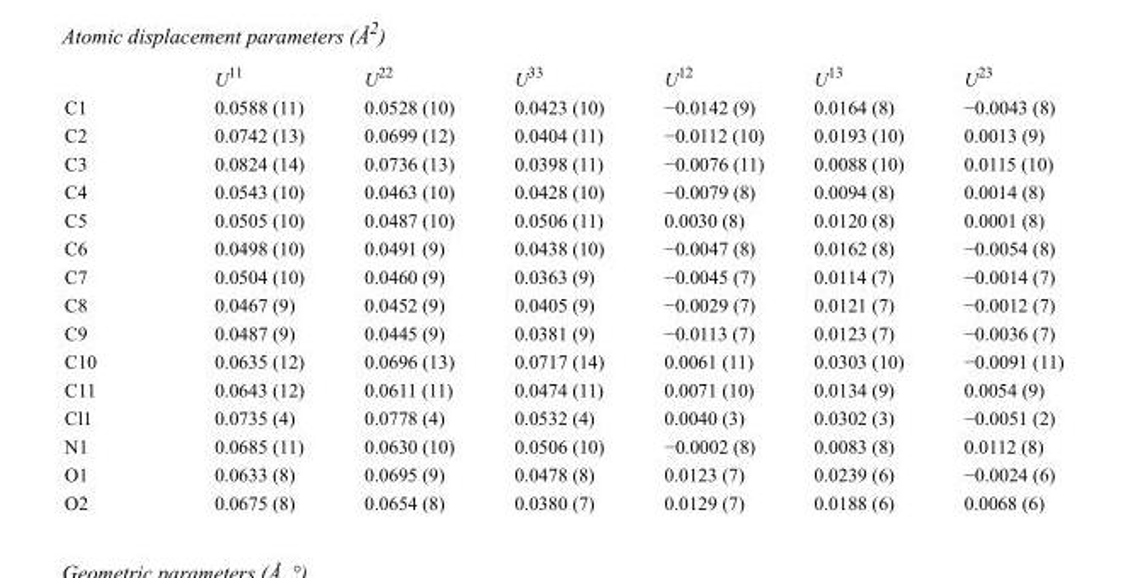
<table><thead><tr><td></td><td>U<sup>11</sup></td><td>U<sup>22</sup></td><td>U<sup>33</sup></td><td>U<sup>12</sup></td><td>U<sup>13</sup></td><td>U<sup>23</sup></td></tr></thead><tbody><tr><td>C1</td><td>0.0588 (11)</td><td>0.0528 (10)</td><td>0.0423 (10)</td><td>−0.0142 (9)</td><td>0.0164 (8)</td><td>−0.0043 (8)</td></tr><tr><td>C2</td><td>0.0742 (13)</td><td>0.0699 (12)</td><td>0.0404 (11)</td><td>−0.0112 (10)</td><td>0.0193 (10)</td><td>0.0013 (9)</td></tr><tr><td>C3</td><td>0.0824 (14)</td><td>0.0736 (13)</td><td>0.0398 (11)</td><td>−0.0076 (11)</td><td>0.0088 (10)</td><td>0.0115 (10)</td></tr><tr><td>C4</td><td>0.0543 (10)</td><td>0.0463 (10)</td><td>0.0428 (10)</td><td>−0.0079 (8)</td><td>0.0094 (8)</td><td>0.0014 (8)</td></tr><tr><td>C5</td><td>0.0505 (10)</td><td>0.0487 (10)</td><td>0.0506 (11)</td><td>0.0030 (8)</td><td>0.0120 (8)</td><td>0.0001 (8)</td></tr><tr><td>C6</td><td>0.0498 (10)</td><td>0.0491 (9)</td><td>0.0438 (10)</td><td>−0.0047 (8)</td><td>0.0162 (8)</td><td>−0.0054 (8)</td></tr><tr><td>C7</td><td>0.0504 (10)</td><td>0.0460 (9)</td><td>0.0363 (9)</td><td>−0.0045 (7)</td><td>0.0114 (7)</td><td>−0.0014 (7)</td></tr><tr><td>C8</td><td>0.0467 (9)</td><td>0.0452 (9)</td><td>0.0405 (9)</td><td>−0.0029 (7)</td><td>0.0121 (7)</td><td>−0.0012 (7)</td></tr><tr><td>C9</td><td>0.0487 (9)</td><td>0.0445 (9)</td><td>0.0381 (9)</td><td>−0.0113 (7)</td><td>0.0123 (7)</td><td>−0.0036 (7)</td></tr><tr><td>C10</td><td>0.0635 (12)</td><td>0.0696 (13)</td><td>0.0717 (14)</td><td>0.0061 (11)</td><td>0.0303 (10)</td><td>−0.0091 (11)</td></tr><tr><td>C11</td><td>0.0643 (12)</td><td>0.0611 (11)</td><td>0.0474 (11)</td><td>0.0071 (10)</td><td>0.0134 (9)</td><td>0.0054 (9)</td></tr><tr><td>Cl1</td><td>0.0735 (4)</td><td>0.0778 (4)</td><td>0.0532 (4)</td><td>0.0040 (3)</td><td>0.0302 (3)</td><td>−0.0051 (2)</td></tr><tr><td>N1</td><td>0.0685 (11)</td><td>0.0630 (10)</td><td>0.0506 (10)</td><td>−0.0002 (8)</td><td>0.0083 (8)</td><td>0.0112 (8)</td></tr><tr><td>O1</td><td>0.0633 (8)</td><td>0.0695 (9)</td><td>0.0478 (8)</td><td>0.0123 (7)</td><td>0.0239 (6)</td><td>−0.0024 (6)</td></tr><tr><td>O2</td><td>0.0675 (8)</td><td>0.0654 (8)</td><td>0.0380 (7)</td><td>0.0129 (7)</td><td>0.0188 (6)</td><td>0.0068 (6)</td></tr></tbody></table>